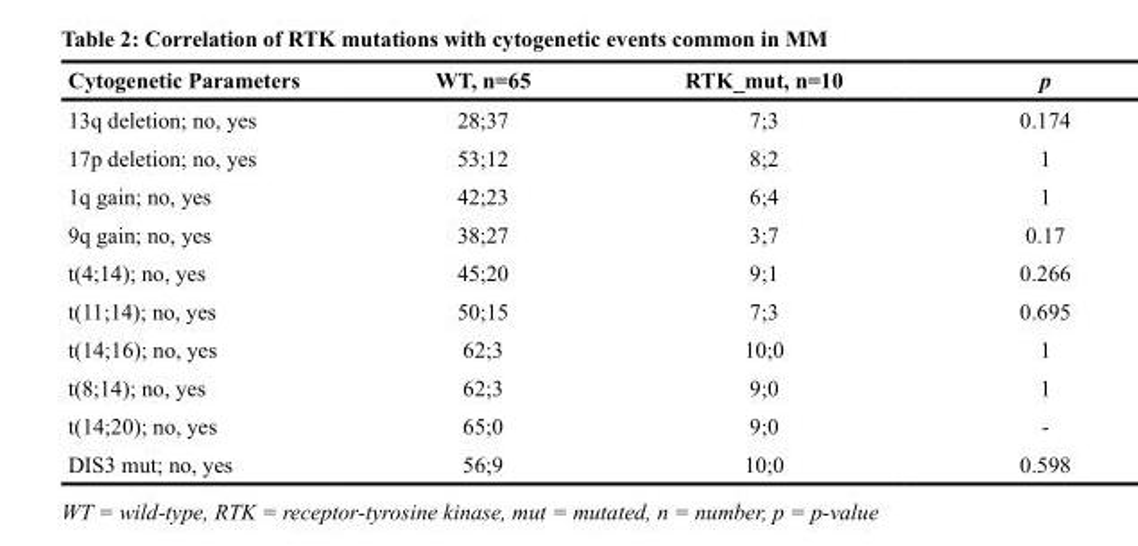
<table><thead><tr><td>Cytogenetic Parameters</td><td>WT, n=65</td><td>RTK_mut, n=10</td><td>p</td></tr></thead><tbody><tr><td>13q deletion; no, yes</td><td>28;37</td><td>7;3</td><td>0.174</td></tr><tr><td>17p deletion; no, yes</td><td>53;12</td><td>8;2</td><td>1</td></tr><tr><td>1q gain; no, yes</td><td>42;23</td><td>6;4</td><td>1</td></tr><tr><td>9q gain; no, yes</td><td>38;27</td><td>3;7</td><td>0.17</td></tr><tr><td>t(4;14); no, yes</td><td>45;20</td><td>9;1</td><td>0.266</td></tr><tr><td>t(11;14); no, yes</td><td>50;15</td><td>7;3</td><td>0.695</td></tr><tr><td>t(14;16); no, yes</td><td>62;3</td><td>10;0</td><td>1</td></tr><tr><td>t(8;14); no, yes</td><td>62;3</td><td>9;0</td><td>1</td></tr><tr><td>t(14;20); no, yes</td><td>65;0</td><td>9;0</td><td>-</td></tr><tr><td>DIS3 mut; no, yes</td><td>56;9</td><td>10;0</td><td>0.598</td></tr></tbody></table>